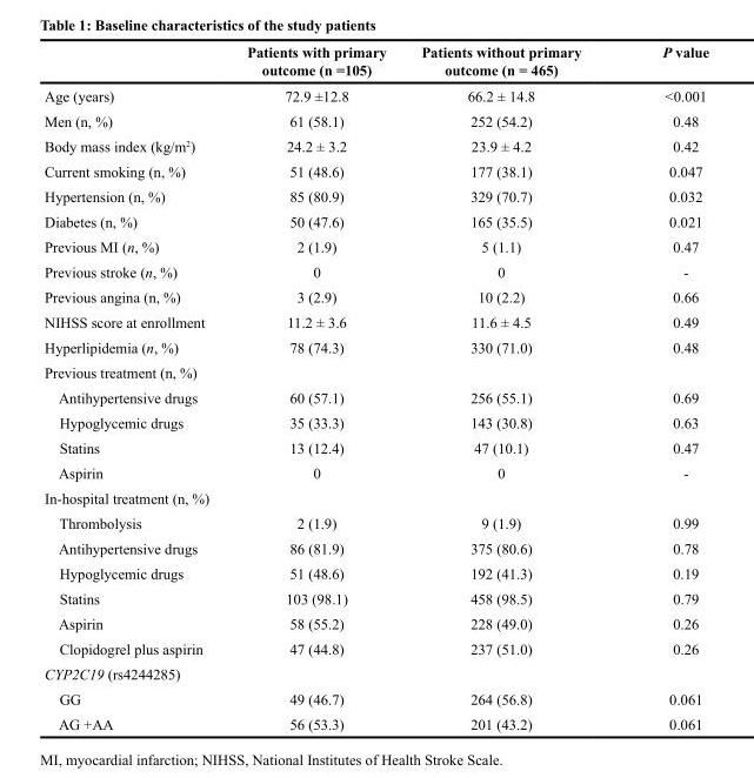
<table><thead><tr><td></td><td>Patients with primary outcome (n =105)</td><td>Patients without primary outcome (n = 465)</td><td>P value</td></tr></thead><tbody><tr><td>Age (years)</td><td>72.9 ±12.8</td><td>66.2 ± 14.8</td><td>&lt;0.001</td></tr><tr><td>Men (n, %)</td><td>61 (58.1)</td><td>252 (54.2)</td><td>0.48</td></tr><tr><td>Body mass index (kg/m<sup>2</sup>)</td><td>24.2 ± 3.2</td><td>23.9 ± 4.2</td><td>0.42</td></tr><tr><td>Current smoking (n, %)</td><td>51 (48.6)</td><td>177 (38.1)</td><td>0.047</td></tr><tr><td>Hypertension (n, %)</td><td>85 (80.9)</td><td>329 (70.7)</td><td>0.032</td></tr><tr><td>Diabetes (n, %)</td><td>50 (47.6)</td><td>165 (35.5)</td><td>0.021</td></tr><tr><td>Previous MI (n, %)</td><td>2 (1.9)</td><td>5 (1.1)</td><td>0.47</td></tr><tr><td>Previous stroke (n, %)</td><td>0</td><td>0</td><td>-</td></tr><tr><td>Previous angina (n, %)</td><td>3 (2.9)</td><td>10 (2.2)</td><td>0.66</td></tr><tr><td>NIHSS score at enrollment</td><td>11.2 ± 3.6</td><td>11.6 ± 4.5</td><td>0.49</td></tr><tr><td>Hyperlipidemia (n, %)</td><td>78 (74.3)</td><td>330 (71.0)</td><td>0.48</td></tr><tr><td colspan="4">Previous treatment (n, %)</td></tr><tr><td>Antihypertensive drugs</td><td>60 (57.1)</td><td>256 (55.1)</td><td>0.69</td></tr><tr><td>Hypoglycemic drugs</td><td>35 (33.3)</td><td>143 (30.8)</td><td>0.63</td></tr><tr><td>Statins</td><td>13 (12.4)</td><td>47 (10.1)</td><td>0.47</td></tr><tr><td>Aspirin</td><td>0</td><td>0</td><td>-</td></tr><tr><td colspan="4">In-hospital treatment (n, %)</td></tr><tr><td>Thrombolysis</td><td>2 (1.9)</td><td>9 (1.9)</td><td>0.99</td></tr><tr><td>Antihypertensive drugs</td><td>86 (81.9)</td><td>375 (80.6)</td><td>0.78</td></tr><tr><td>Hypoglycemic drugs</td><td>51 (48.6)</td><td>192 (41.3)</td><td>0.19</td></tr><tr><td>Statins</td><td>103 (98.1)</td><td>458 (98.5)</td><td>0.79</td></tr><tr><td>Aspirin</td><td>58 (55.2)</td><td>228 (49.0)</td><td>0.26</td></tr><tr><td>Clopidogrel plus aspirin</td><td>47 (44.8)</td><td>237 (51.0)</td><td>0.26</td></tr><tr><td colspan="4">CYP2C19 (rs4244285)</td></tr><tr><td>GG</td><td>49 (46.7)</td><td>264 (56.8)</td><td>0.061</td></tr><tr><td>AG +AA</td><td>56 (53.3)</td><td>201 (43.2)</td><td>0.061</td></tr></tbody></table>